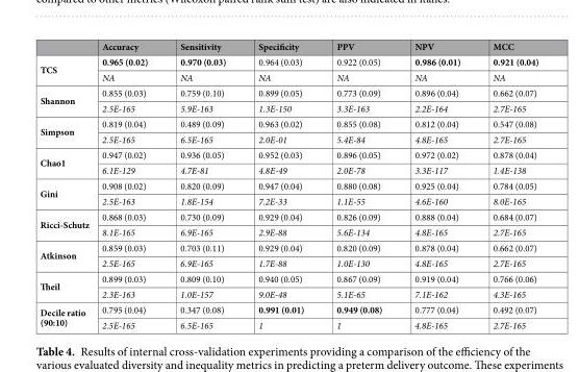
<table><thead><tr><td></td><td>Accuracy</td><td>Sensitivity</td><td>Specificity</td><td>PPV</td><td>NPV</td><td>MCC</td></tr></thead><tbody><tr><td rowspan="2">TCS</td><td>0.965 (0.02)</td><td>0.970 (0.03)</td><td>0.964 (0.03)</td><td>0.922 (0.05)</td><td>0.986 (0.01)</td><td>0.921 (0.04)</td></tr><tr><td>NA</td><td>NA</td><td>NA</td><td>NA</td><td>NA</td><td>NA</td></tr><tr><td rowspan="2">Shannon</td><td>0.855 (0.03)</td><td>0.759 (0.10)</td><td>0.899 (0.05)</td><td>0.773 (0.09)</td><td>0.896 (0.04)</td><td>0.662 (0.07)</td></tr><tr><td>2.5E-165</td><td>5.9E-163</td><td>1.3E-150</td><td>3.3E-163</td><td>2.2E-164</td><td>2.7E-165</td></tr><tr><td rowspan="2">Simpson</td><td>0.819 (0.04)</td><td>0.489 (0.09)</td><td>0.963 (0.02)</td><td>0.855 (0.08)</td><td>0.812 (0.04)</td><td>0.547 (0.08)</td></tr><tr><td>2.5E-165</td><td>6.5E-165</td><td>2.0E-01</td><td>5.4E-84</td><td>4.8E-165</td><td>2.7E-165</td></tr><tr><td rowspan="2">Chao1</td><td>0.947 (0.02)</td><td>0.936 (0.05)</td><td>0.952 (0.03)</td><td>0.896 (0.05)</td><td>0.972 (0.02)</td><td>0.878 (0.04)</td></tr><tr><td>6.1E-129</td><td>4.7E-81</td><td>4.8E-49</td><td>2.0E-78</td><td>3.3E-117</td><td>1.4E-138</td></tr><tr><td rowspan="2">Gini</td><td>0.908 (0.02)</td><td>0.820 (0.09)</td><td>0.947 (0.04)</td><td>0.880 (0.08)</td><td>0.925 (0.04)</td><td>0.784 (0.05)</td></tr><tr><td>2.5E-163</td><td>1.8E-154</td><td>7.2E-33</td><td>1.1E-55</td><td>4.6E-160</td><td>8.0E-165</td></tr><tr><td rowspan="2">Ricci-Schutz</td><td>0.868 (0.03)</td><td>0.730 (0.09)</td><td>0.929 (0.04)</td><td>0.826 (0.09)</td><td>0.888 (0.04)</td><td>0.684 (0.07)</td></tr><tr><td>8.1E-165</td><td>6.9E-165</td><td>2.9E-88</td><td>5.6E-134</td><td>4.8E-165</td><td>2.7E-165</td></tr><tr><td rowspan="2">Atkinson</td><td>0.859 (0.03)</td><td>0.703 (0.11)</td><td>0.929 (0.04)</td><td>0.820 (0.09)</td><td>0.878 (0.04)</td><td>0.662 (0.07)</td></tr><tr><td>2.5E-165</td><td>6.9E-165</td><td>1.7E-88</td><td>1.0E-130</td><td>4.8E-165</td><td>2.7E-165</td></tr><tr><td rowspan="2">Theil</td><td>0.899 (0.03)</td><td>0.809 (0.10)</td><td>0.940 (0.05)</td><td>0.867 (0.09)</td><td>0.919 (0.04)</td><td>0.766 (0.06)</td></tr><tr><td>2.3E-163</td><td>1.0E-157</td><td>9.0E-48</td><td>5.1E-65</td><td>7.1E-162</td><td>4.3E-165</td></tr><tr><td rowspan="2">Decile ratio (90:10)</td><td>0.795 (0.04)</td><td>0.347 (0.08)</td><td>0.991 (0.01)</td><td>0.949 (0.08)</td><td>0.777 (0.04)</td><td>0.492 (0.07)</td></tr><tr><td>2.5E-165</td><td>6.5E-165</td><td>1</td><td>1</td><td>4.8E-165</td><td>2.7E-165</td></tr></tbody></table>